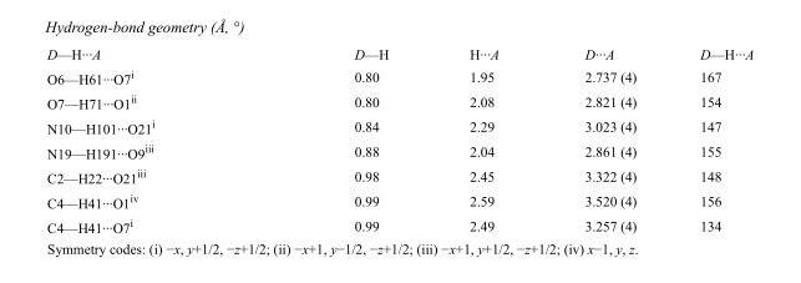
<table><tbody><tr><td>D—H···A</td><td>D—H</td><td>H···A</td><td>D···A</td><td>D—H···A</td></tr><tr><td>O6—H61···O7<sup>i</sup></td><td>0.80</td><td>1.95</td><td>2.737 (4)</td><td>167</td></tr><tr><td>O7—H71···O1<sup>ii</sup></td><td>0.80</td><td>2.08</td><td>2.821 (4)</td><td>154</td></tr><tr><td>N10—H101···O21<sup>i</sup></td><td>0.84</td><td>2.29</td><td>3.023 (4)</td><td>147</td></tr><tr><td>N19—H191···O9<sup>iii</sup></td><td>0.88</td><td>2.04</td><td>2.861 (4)</td><td>155</td></tr><tr><td>C2—H22···O21<sup>iii</sup></td><td>0.98</td><td>2.45</td><td>3.322 (4)</td><td>148</td></tr><tr><td>C4—H41···O1<sup>iv</sup></td><td>0.99</td><td>2.59</td><td>3.520 (4)</td><td>156</td></tr><tr><td>C4—H41···O7<sup>i</sup></td><td>0.99</td><td>2.49</td><td>3.257 (4)</td><td>134</td></tr></tbody></table>